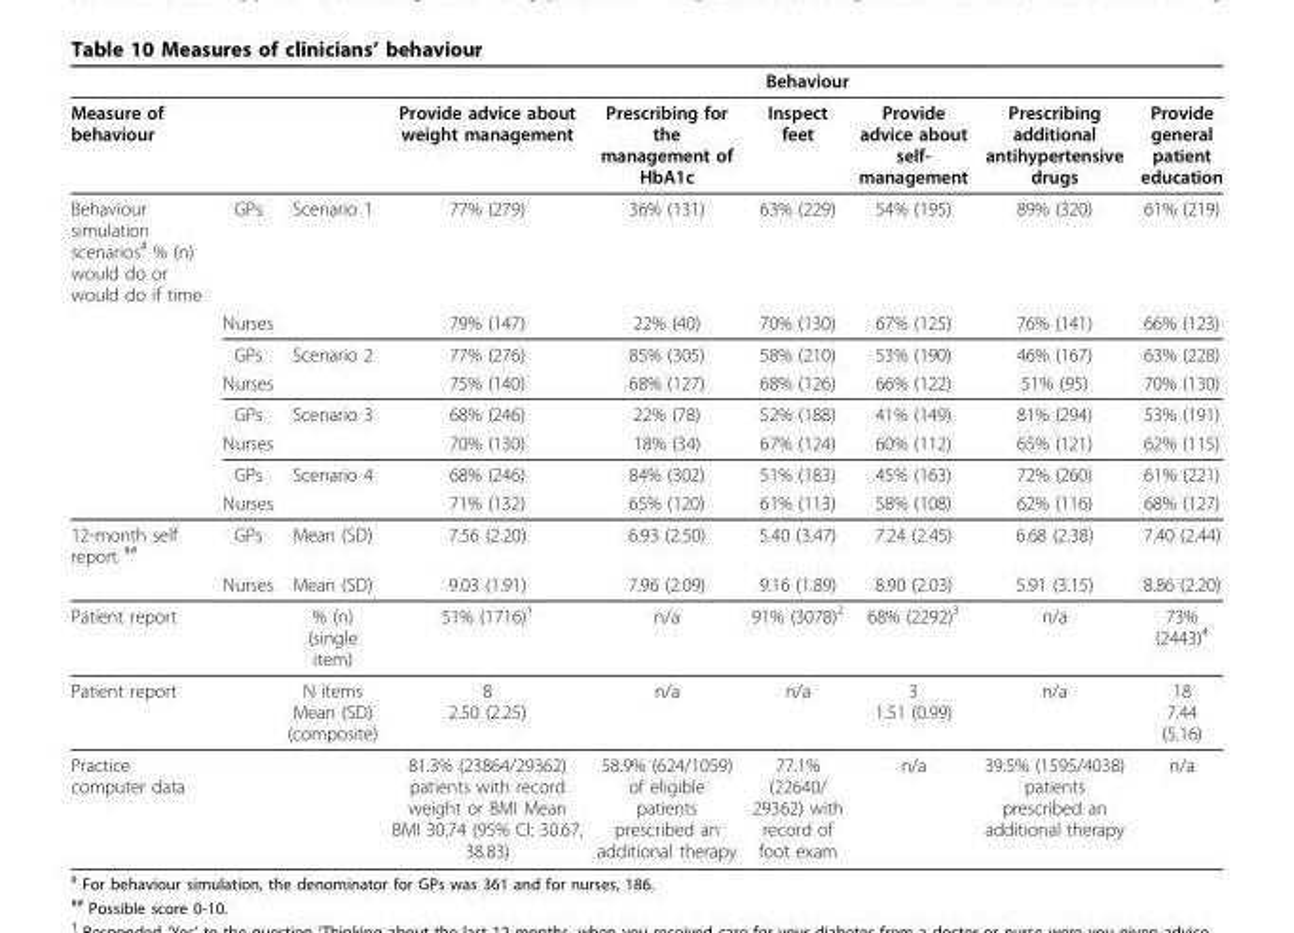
<table><thead><tr><td rowspan="2">Measure of behaviour</td><td rowspan="2"></td><td rowspan="2"></td><td colspan="6">Behaviour</td></tr><tr><td>Provide advice about weight management</td><td>Prescribing for the management of HbA1c</td><td>Inspect feet</td><td>Provide advice about self- management</td><td>Prescribing additional antihypertensive drugs</td><td>Provide general patient education</td></tr></thead><tbody><tr><td rowspan="8">Behaviour simulation scenarios<sup>#</sup> % (n) would do or would do if time</td><td>GPs</td><td>Scenario 1</td><td>77% (279)</td><td>36% (131)</td><td>63% (229)</td><td>54% (195)</td><td>89% (320)</td><td>61% (219)</td></tr><tr><td>Nurses</td><td></td><td>79% (147)</td><td>22% (40)</td><td>70% (130)</td><td>67% (125)</td><td>76% (141)</td><td>66% (123)</td></tr><tr><td>GPs</td><td>Scenario 2</td><td>77% (276)</td><td>85% (305)</td><td>58% (210)</td><td>53% (190)</td><td>46% (167)</td><td>63% (228)</td></tr><tr><td>Nurses</td><td></td><td>75% (140)</td><td>68% (127)</td><td>68% (126)</td><td>66% (122)</td><td>51% (95)</td><td>70% (130)</td></tr><tr><td>GPs</td><td>Scenario 3</td><td>68% (246)</td><td>22% (78)</td><td>52% (188)</td><td>41% (149)</td><td>81% (294)</td><td>53% (191)</td></tr><tr><td>Nurses</td><td></td><td>70% (130)</td><td>18% (34)</td><td>67% (124)</td><td>60% (112)</td><td>65% (121)</td><td>62% (115)</td></tr><tr><td>GPs</td><td>Scenario 4</td><td>68% (246)</td><td>84% (302)</td><td>51% (183)</td><td>45% (163)</td><td>72% (260)</td><td>61% (221)</td></tr><tr><td>Nurses</td><td></td><td>71% (132)</td><td>65% (120)</td><td>61% (113)</td><td>58% (108)</td><td>62% (116)</td><td>68% (127)</td></tr><tr><td rowspan="2">12-month self report <sup>##</sup></td><td>GPs</td><td>Mean (SD)</td><td>7.56 (2.20)</td><td>6.93 (2.50)</td><td>5.40 (3.47)</td><td>7.24 (2.45)</td><td>6.68 (2.38)</td><td>7.40 (2.44)</td></tr><tr><td>Nurses</td><td>Mean (SD)</td><td>9.03 (1.91)</td><td>7.96 (2.09)</td><td>9.16 (1.89)</td><td>8.90 (2.03)</td><td>5.91 (3.15)</td><td>8.86 (2.20)</td></tr><tr><td>Patient report</td><td></td><td>% (n) (single item)</td><td>51% (1716)<sup>1</sup></td><td>n/a</td><td>91% (3078)<sup>2</sup></td><td>68% (2292)<sup>3</sup></td><td>n/a</td><td>73% (2443)<sup>4</sup></td></tr><tr><td>Patient report</td><td></td><td>N items Mean (SD) (composite)</td><td>8 2.50 (2.25)</td><td>n/a</td><td>n/a</td><td>3 1.51 (0.99)</td><td>n/a</td><td>18 7.44 (5.16)</td></tr><tr><td>Practice computer data</td><td></td><td></td><td>81.3% (23864/29362) patients with record weight or BMI Mean BMI 30.74 (95% CI: 30.67, 38.83)</td><td>58.9% (624/1059) of eligible patients prescribed an additional therapy</td><td>77.1% (22640/ 29362) with record of foot exam</td><td>n/a</td><td>39.5% (1595/4038) patients prescribed an additional therapy</td><td>n/a</td></tr></tbody></table>